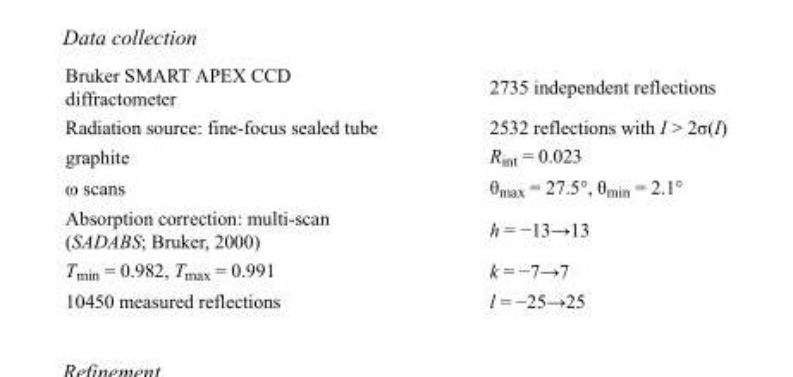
<table><tbody><tr><td>Bruker SMART APEX CCD diffractometer</td><td>2735 independent reflections</td></tr><tr><td>Radiation source: fine-focus sealed tube</td><td>2532 reflections with I &gt; 2σ(I)</td></tr><tr><td>graphite</td><td>R<sub>int</sub> = 0.023</td></tr><tr><td>ω scans</td><td>θ<sub>max</sub> = 27.5°, θ<sub>min</sub> = 2.1°</td></tr><tr><td>Absorption correction: multi-scan (SADABS; Bruker, 2000)</td><td>h = −13→13</td></tr><tr><td>T<sub>min</sub> = 0.982, T<sub>max</sub> = 0.991</td><td>k = −7→7</td></tr><tr><td>10450 measured reflections</td><td>l = −25→25</td></tr></tbody></table>